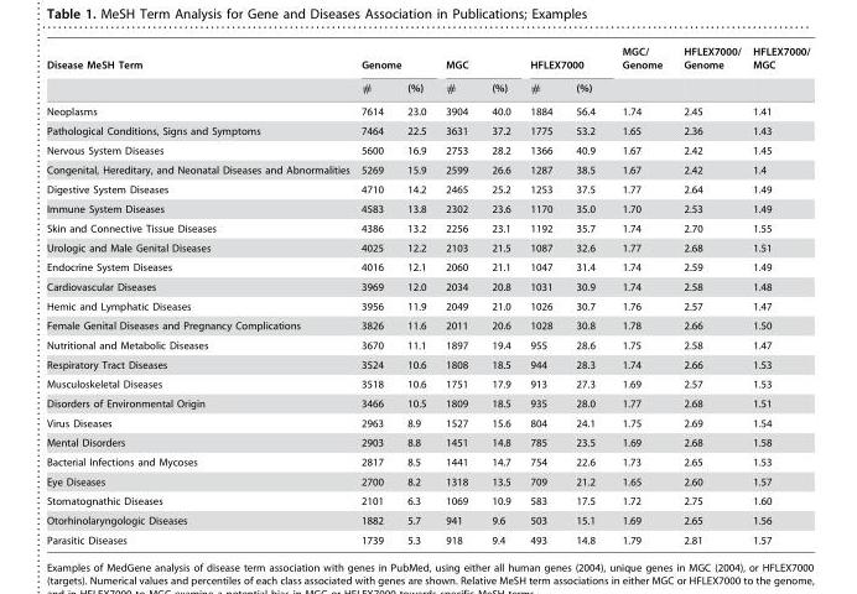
<table><thead><tr><td rowspan="2">Disease MeSH Term</td><td colspan="2">Genome</td><td colspan="2">MGC</td><td colspan="2">HFLEX7000</td><td rowspan="2">MGC/ Genome</td><td rowspan="2">HFLEX7000/ Genome</td><td rowspan="2">HFLEX7000/ MGC</td></tr><tr><td>#</td><td>(%)</td><td>#</td><td>(%)</td><td>#</td><td>(%)</td></tr></thead><tbody><tr><td>Neoplasms</td><td>7614</td><td>23.0</td><td>3904</td><td>40.0</td><td>1884</td><td>56.4</td><td>1.74</td><td>2.45</td><td>1.41</td></tr><tr><td>Pathological Conditions, Signs and Symptoms</td><td>7464</td><td>22.5</td><td>3631</td><td>37.2</td><td>1775</td><td>53.2</td><td>1.65</td><td>2.36</td><td>1.43</td></tr><tr><td>Nervous System Diseases</td><td>5600</td><td>16.9</td><td>2753</td><td>28.2</td><td>1366</td><td>40.9</td><td>1.67</td><td>2.42</td><td>1.45</td></tr><tr><td>Congenital, Hereditary, and Neonatal Diseases and Abnormalities</td><td>5269</td><td>15.9</td><td>2599</td><td>26.6</td><td>1287</td><td>38.5</td><td>1.67</td><td>2.42</td><td>1.4</td></tr><tr><td>Digestive System Diseases</td><td>4710</td><td>14.2</td><td>2465</td><td>25.2</td><td>1253</td><td>37.5</td><td>1.77</td><td>2.64</td><td>1.49</td></tr><tr><td>Immune System Diseases</td><td>4583</td><td>13.8</td><td>2302</td><td>23.6</td><td>1170</td><td>35.0</td><td>1.70</td><td>2.53</td><td>1.49</td></tr><tr><td>Skin and Connective Tissue Diseases</td><td>4386</td><td>13.2</td><td>2256</td><td>23.1</td><td>1192</td><td>35.7</td><td>1.74</td><td>2.70</td><td>1.55</td></tr><tr><td>Urologic and Male Genital Diseases</td><td>4025</td><td>12.2</td><td>2103</td><td>21.5</td><td>1087</td><td>32.6</td><td>1.77</td><td>2.68</td><td>1.51</td></tr><tr><td>Endocrine System Diseases</td><td>4016</td><td>12.1</td><td>2060</td><td>21.1</td><td>1047</td><td>31.4</td><td>1.74</td><td>2.59</td><td>1.49</td></tr><tr><td>Cardiovascular Diseases</td><td>3969</td><td>12.0</td><td>2034</td><td>20.8</td><td>1031</td><td>30.9</td><td>1.74</td><td>2.58</td><td>1.48</td></tr><tr><td>Hemic and Lymphatic Diseases</td><td>3956</td><td>11.9</td><td>2049</td><td>21.0</td><td>1026</td><td>30.7</td><td>1.76</td><td>2.57</td><td>1.47</td></tr><tr><td>Female Genital Diseases and Pregnancy Complications</td><td>3826</td><td>11.6</td><td>2011</td><td>20.6</td><td>1028</td><td>30.8</td><td>1.78</td><td>2.66</td><td>1.50</td></tr><tr><td>Nutritional and Metabolic Diseases</td><td>3670</td><td>11.1</td><td>1897</td><td>19.4</td><td>955</td><td>28.6</td><td>1.75</td><td>2.58</td><td>1.47</td></tr><tr><td>Respiratory Tract Diseases</td><td>3524</td><td>10.6</td><td>1808</td><td>18.5</td><td>944</td><td>28.3</td><td>1.74</td><td>2.66</td><td>1.53</td></tr><tr><td>Musculoskeletal Diseases</td><td>3518</td><td>10.6</td><td>1751</td><td>17.9</td><td>913</td><td>27.3</td><td>1.69</td><td>2.57</td><td>1.53</td></tr><tr><td>Disorders of Environmental Origin</td><td>3466</td><td>10.5</td><td>1809</td><td>18.5</td><td>935</td><td>28.0</td><td>1.77</td><td>2.68</td><td>1.51</td></tr><tr><td>Virus Diseases</td><td>2963</td><td>8.9</td><td>1527</td><td>15.6</td><td>804</td><td>24.1</td><td>1.75</td><td>2.69</td><td>1.54</td></tr><tr><td>Mental Disorders</td><td>2903</td><td>8.8</td><td>1451</td><td>14.8</td><td>785</td><td>23.5</td><td>1.69</td><td>2.68</td><td>1.58</td></tr><tr><td>Bacterial Infections and Mycoses</td><td>2817</td><td>8.5</td><td>1441</td><td>14.7</td><td>754</td><td>22.6</td><td>1.73</td><td>2.65</td><td>1.53</td></tr><tr><td>Eye Diseases</td><td>2700</td><td>8.2</td><td>1318</td><td>13.5</td><td>709</td><td>21.2</td><td>1.65</td><td>2.60</td><td>1.57</td></tr><tr><td>Stomatognathic Diseases</td><td>2101</td><td>6.3</td><td>1069</td><td>10.9</td><td>583</td><td>17.5</td><td>1.72</td><td>2.75</td><td>1.60</td></tr><tr><td>Otorhinolaryngologic Diseases</td><td>1882</td><td>5.7</td><td>941</td><td>9.6</td><td>503</td><td>15.1</td><td>1.69</td><td>2.65</td><td>1.56</td></tr><tr><td>Parasitic Diseases</td><td>1739</td><td>5.3</td><td>918</td><td>9.4</td><td>493</td><td>14.8</td><td>1.79</td><td>2.81</td><td>1.57</td></tr></tbody></table>